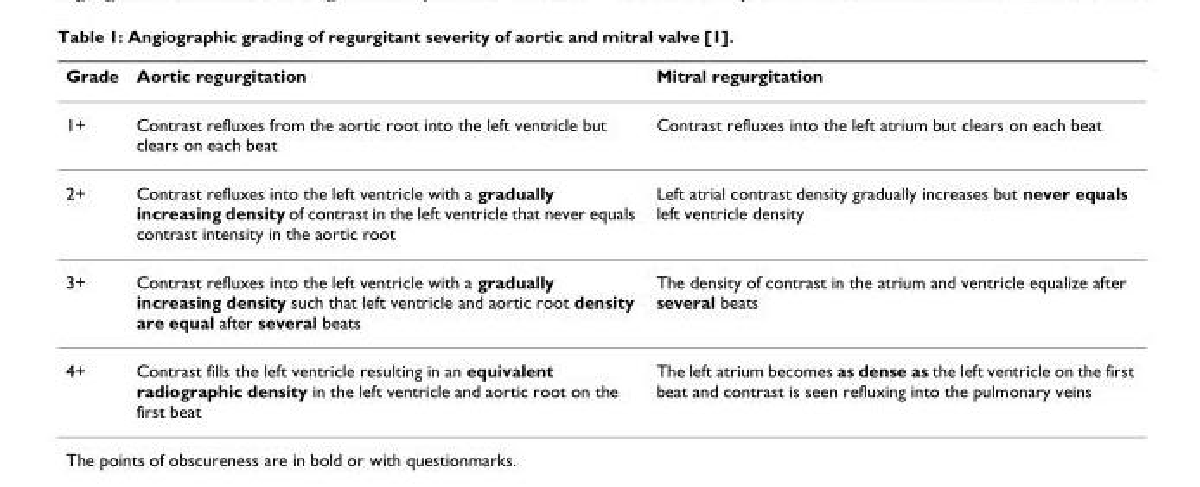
<table><thead><tr><td>Grade</td><td>Aortic regurgitation</td><td>Mitral regurgitation</td></tr></thead><tbody><tr><td>1+</td><td>Contrast refluxes from the aortic root into the left ventricle but clears on each beat</td><td>Contrast refluxes into the left atrium but clears on each beat</td></tr><tr><td>2+</td><td>Contrast refluxes into the left ventricle with a gradually increasing density of contrast in the left ventricle that never equals contrast intensity in the aortic root</td><td>Left atrial contrast density gradually increases but never equals left ventricle density</td></tr><tr><td>3+</td><td>Contrast refluxes into the left ventricle with a gradually increasing density such that left ventricle and aortic root density are equal after several beats</td><td>The density of contrast in the atrium and ventricle equalize after several beats</td></tr><tr><td>4+</td><td>Contrast fills the left ventricle resulting in an equivalent radiographic density in the left ventricle and aortic root on the first beat</td><td>The left atrium becomes as dense as the left ventricle on the first beat and contrast is seen refluxing into the pulmonary veins</td></tr></tbody></table>